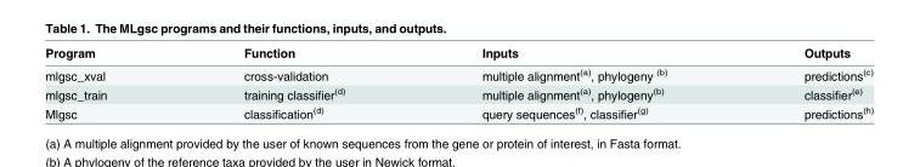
<table><thead><tr><td>Program</td><td>Function</td><td>Inputs</td><td>Outputs</td></tr></thead><tbody><tr><td>mlgsc_xval</td><td>cross-validation</td><td>multiple alignment<sup>(a)</sup>, phylogeny <sup>(b)</sup></td><td>predictions<sup>(c)</sup></td></tr><tr><td>mlgsc_train</td><td>training classifier<sup>(d)</sup></td><td>multiple alignment<sup>(a)</sup>, phylogeny<sup>(b)</sup></td><td>classifier<sup>(e)</sup></td></tr><tr><td>Mlgsc</td><td>classification<sup>(d)</sup></td><td>query sequences<sup>(f)</sup>, classifier<sup>(g)</sup></td><td>predictions<sup>(h)</sup></td></tr></tbody></table>